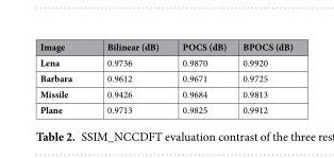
<table><thead><tr><td>Image</td><td>Bilinear (dB)</td><td>POCS (dB)</td><td>BPOCS (dB)</td></tr></thead><tbody><tr><td>Lena</td><td>0.9736</td><td>0.9870</td><td>0.9920</td></tr><tr><td>Barbara</td><td>0.9612</td><td>0.9671</td><td>0.9725</td></tr><tr><td>Missile</td><td>0.9426</td><td>0.9684</td><td>0.9813</td></tr><tr><td>Plane</td><td>0.9713</td><td>0.9825</td><td>0.9912</td></tr></tbody></table>